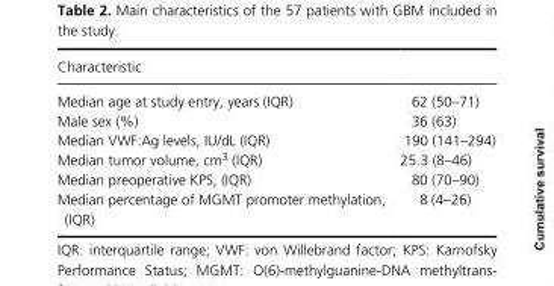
<table><thead><tr><td>Characteristic</td><td></td></tr></thead><tbody><tr><td>Median age at study entry, years (IQR)</td><td>62 (50–71)</td></tr><tr><td>Male sex (%)</td><td>36 (63)</td></tr><tr><td>Median VWF:Ag levels, IU/dL (IQR)</td><td>190 (141–294)</td></tr><tr><td>Median tumor volume, cm<sup>3</sup> (IQR)</td><td>25.3 (8–46)</td></tr><tr><td>Median preoperative KPS, (IQR)</td><td>80 (70–90)</td></tr><tr><td>Median percentage of MGMT promoter methylation, (IQR)</td><td>8 (4–26)</td></tr></tbody></table>